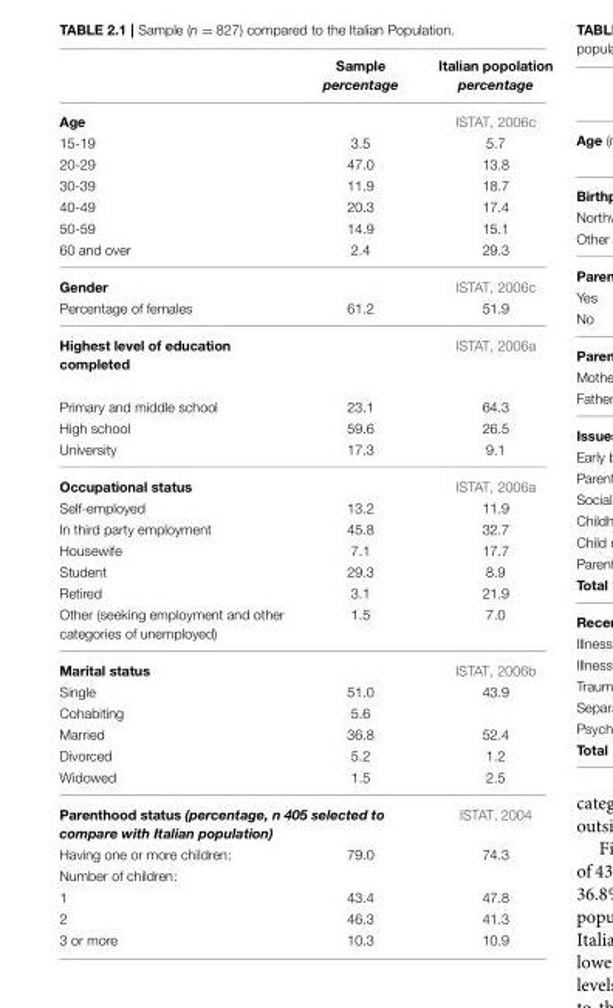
<table><thead><tr><td></td><td>Sample percentage</td><td>Italian popolation percentage</td></tr></thead><tbody><tr><td>Age</td><td></td><td>ISTAT, 2006c</td></tr><tr><td>15-19</td><td>3.5</td><td>5.7</td></tr><tr><td>20-29</td><td>47.0</td><td>13.8</td></tr><tr><td>30-39</td><td>11.9</td><td>18.7</td></tr><tr><td>40-49</td><td>20.3</td><td>17.4</td></tr><tr><td>50-59</td><td>14.9</td><td>15.1</td></tr><tr><td>60 and over</td><td>2.4</td><td>29.3</td></tr><tr><td>Gender</td><td></td><td>ISTAT, 2006c</td></tr><tr><td>Percentage of females</td><td>61.2</td><td>51.9</td></tr><tr><td>Highest level of education completed</td><td></td><td>ISTAT, 2006a</td></tr><tr><td>Primary and middle school</td><td>23.1</td><td>64.3</td></tr><tr><td>High school</td><td>59.6</td><td>26.5</td></tr><tr><td>University</td><td>17.3</td><td>9.1</td></tr><tr><td>Occupational status</td><td></td><td>ISTAT, 2006a</td></tr><tr><td>Self-employed</td><td>13.2</td><td>11.9</td></tr><tr><td>In third party employment</td><td>45.8</td><td>32.7</td></tr><tr><td>Housewife</td><td>7.1</td><td>17.7</td></tr><tr><td>Student</td><td>29.3</td><td>8.9</td></tr><tr><td>Retired</td><td>3.1</td><td>21.9</td></tr><tr><td>Other (seeking employment and other categories of unemployed)</td><td>1.5</td><td>7.0</td></tr><tr><td>Marital status</td><td></td><td>ISTAT, 2006b</td></tr><tr><td>Single</td><td>51.0</td><td>43.9</td></tr><tr><td>Cohabiting</td><td>5.6</td><td></td></tr><tr><td>Married</td><td>36.8</td><td>52.4</td></tr><tr><td>Divorced</td><td>5.2</td><td>1.2</td></tr><tr><td>Widowed</td><td>1.5</td><td>2.5</td></tr><tr><td colspan="2">Parenthood status (percentage, n 405 selected to compare with Italian population)</td><td>ISTAT, 2004</td></tr><tr><td>Having one or more children:</td><td>79.0</td><td>74.3</td></tr><tr><td colspan="3">Number of children:</td></tr><tr><td>1</td><td>43.4</td><td>47.8</td></tr><tr><td>2</td><td>46.3</td><td>41.3</td></tr><tr><td>3 or more</td><td>10.3</td><td>10.9</td></tr></tbody></table>